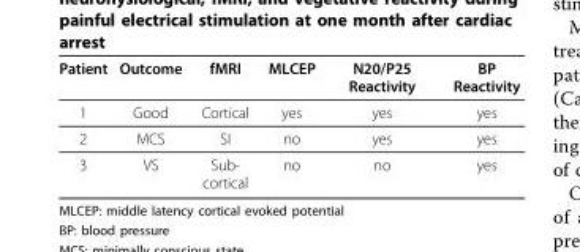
<table><thead><tr><td>Patient</td><td>Outcome</td><td>fMRI</td><td>MLCEP</td><td>N20/P25 Reactivity</td><td>BP Reactivity</td></tr></thead><tbody><tr><td>1</td><td>Good</td><td>Cortical</td><td>yes</td><td>yes</td><td>yes</td></tr><tr><td>2</td><td>MCS</td><td>SI</td><td>no</td><td>yes</td><td>yes</td></tr><tr><td>3</td><td>VS</td><td>Sub- cortical</td><td>no</td><td>no</td><td>yes</td></tr></tbody></table>